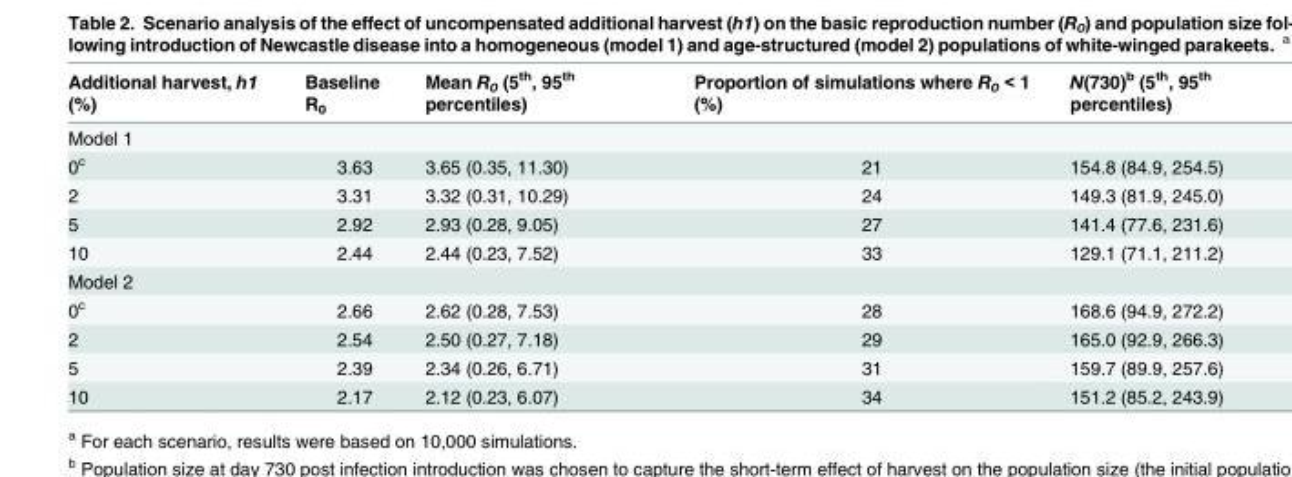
<table><thead><tr><td>Additional harvest, h1 (%)</td><td>Baseline R<sub>0</sub></td><td>Mean R<sub>0</sub> (5<sup>th</sup>, 95<sup>th</sup> percentiles)</td><td>Proportion of simulations where R<sub>0</sub> &lt; 1 (%)</td><td>N(730)<sup>b</sup> (5<sup>th</sup>, 95<sup>th</sup> percentiles)</td></tr></thead><tbody><tr><td colspan="5">Model 1</td></tr><tr><td>0<sup>c</sup></td><td>3.63</td><td>3.65 (0.35, 11.30)</td><td>21</td><td>154.8 (84.9, 254.5)</td></tr><tr><td>2</td><td>3.31</td><td>3.32 (0.31, 10.29)</td><td>24</td><td>149.3 (81.9, 245.0)</td></tr><tr><td>5</td><td>2.92</td><td>2.93 (0.28, 9.05)</td><td>27</td><td>141.4 (77.6, 231.6)</td></tr><tr><td>10</td><td>2.44</td><td>2.44 (0.23, 7.52)</td><td>33</td><td>129.1 (71.1, 211.2)</td></tr><tr><td colspan="5">Model 2</td></tr><tr><td>0<sup>c</sup></td><td>2.66</td><td>2.62 (0.28, 7.53)</td><td>28</td><td>168.6 (94.9, 272.2)</td></tr><tr><td>2</td><td>2.54</td><td>2.50 (0.27, 7.18)</td><td>29</td><td>165.0 (92.9, 266.3)</td></tr><tr><td>5</td><td>2.39</td><td>2.34 (0.26, 6.71)</td><td>31</td><td>159.7 (89.9, 257.6)</td></tr><tr><td>10</td><td>2.17</td><td>2.12 (0.23, 6.07)</td><td>34</td><td>151.2 (85.2, 243.9)</td></tr></tbody></table>